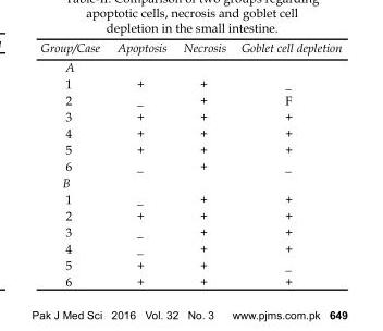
<table><thead><tr><td>Group/Case</td><td>Apoptosis</td><td>Necrosis</td><td>Goblet cell depletion</td></tr></thead><tbody><tr><td colspan="4">A</td></tr><tr><td>1</td><td>+</td><td>+</td><td>_</td></tr><tr><td>2</td><td>_</td><td>+</td><td>F</td></tr><tr><td>3</td><td>+</td><td>+</td><td>+</td></tr><tr><td>4</td><td>+</td><td>+</td><td>+</td></tr><tr><td>5</td><td>+</td><td>+</td><td>+</td></tr><tr><td>6</td><td>_</td><td>+</td><td>_</td></tr><tr><td colspan="4">B</td></tr><tr><td>1</td><td>_</td><td>+</td><td>+</td></tr><tr><td>2</td><td>+</td><td>+</td><td>+</td></tr><tr><td>3</td><td>_</td><td>+</td><td>+</td></tr><tr><td>4</td><td>_</td><td>+</td><td>+</td></tr><tr><td>5</td><td>+</td><td>+</td><td>_</td></tr><tr><td>6</td><td>+</td><td>+</td><td>+</td></tr></tbody></table>